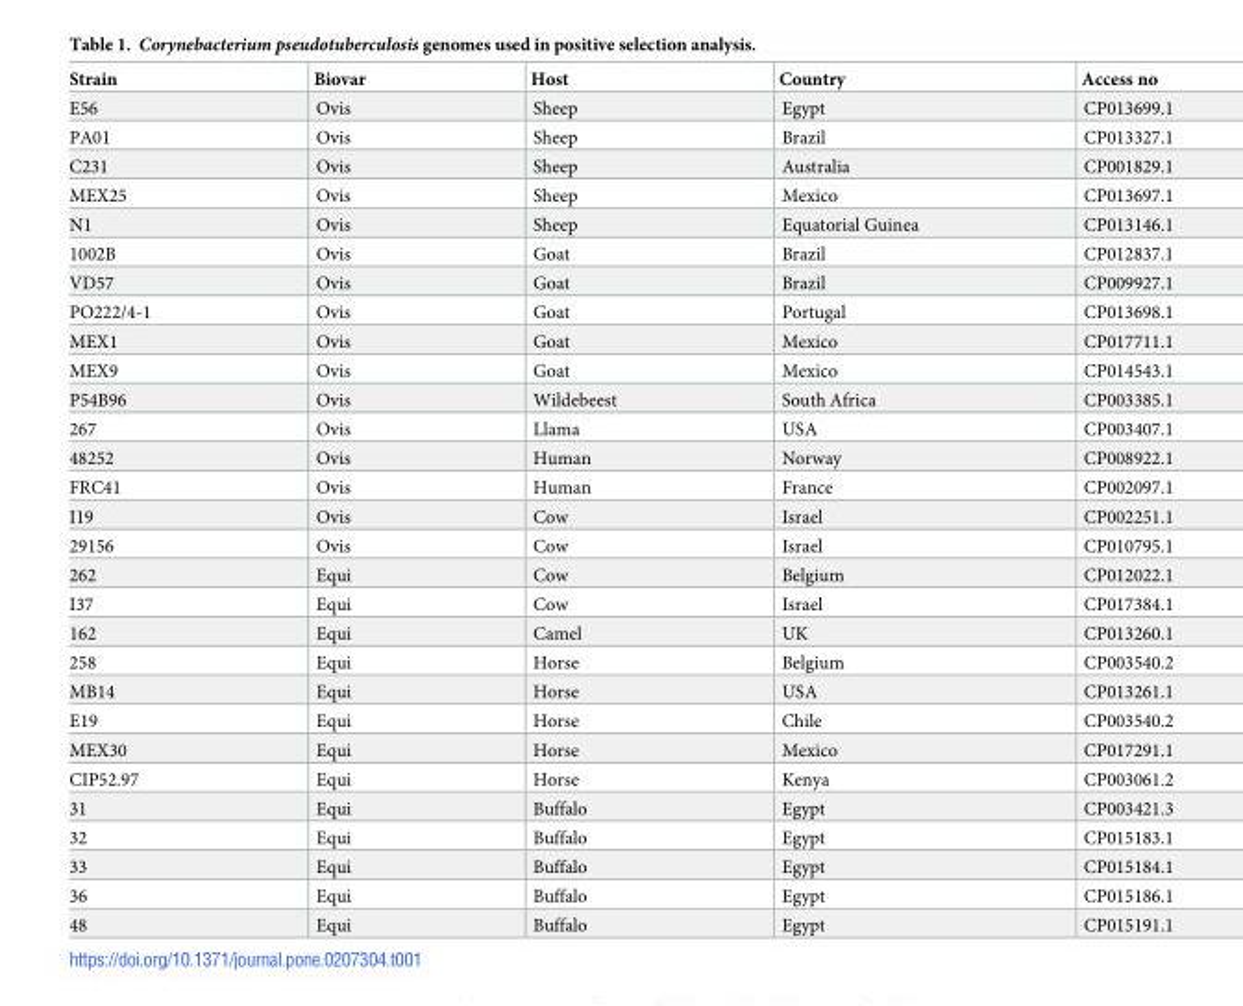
<table><thead><tr><td>Strain</td><td>Biovar</td><td>Host</td><td>Country</td><td>Access no</td></tr></thead><tbody><tr><td>E56</td><td>Ovis</td><td>Sheep</td><td>Egypt</td><td>CP013699.1</td></tr><tr><td>PA01</td><td>Ovis</td><td>Sheep</td><td>Brazil</td><td>CP013327.1</td></tr><tr><td>C231</td><td>Ovis</td><td>Sheep</td><td>Australia</td><td>CP001829.1</td></tr><tr><td>MEX25</td><td>Ovis</td><td>Sheep</td><td>Mexico</td><td>CP013697.1</td></tr><tr><td>N1</td><td>Ovis</td><td>Sheep</td><td>Equatorial Guinea</td><td>CP013146.1</td></tr><tr><td>1002B</td><td>Ovis</td><td>Goat</td><td>Brazil</td><td>CP012837.1</td></tr><tr><td>VD57</td><td>Ovis</td><td>Goat</td><td>Brazil</td><td>CP009927.1</td></tr><tr><td>PO222/4-1</td><td>Ovis</td><td>Goat</td><td>Portugal</td><td>CP013698.1</td></tr><tr><td>MEX1</td><td>Ovis</td><td>Goat</td><td>Mexico</td><td>CP017711.1</td></tr><tr><td>MEX9</td><td>Ovis</td><td>Goat</td><td>Mexico</td><td>CP014543.1</td></tr><tr><td>P54B96</td><td>Ovis</td><td>Wildebeest</td><td>South Africa</td><td>CP003385.1</td></tr><tr><td>267</td><td>Ovis</td><td>Llama</td><td>USA</td><td>CP003407.1</td></tr><tr><td>48252</td><td>Ovis</td><td>Human</td><td>Norway</td><td>CP008922.1</td></tr><tr><td>FRC41</td><td>Ovis</td><td>Human</td><td>France</td><td>CP002097.1</td></tr><tr><td>I19</td><td>Ovis</td><td>Cow</td><td>Israel</td><td>CP002251.1</td></tr><tr><td>29156</td><td>Ovis</td><td>Cow</td><td>Israel</td><td>CP010795.1</td></tr><tr><td>262</td><td>Equi</td><td>Cow</td><td>Belgium</td><td>CP012022.1</td></tr><tr><td>I37</td><td>Equi</td><td>Cow</td><td>Israel</td><td>CP017384.1</td></tr><tr><td>162</td><td>Equi</td><td>Camel</td><td>UK</td><td>CP013260.1</td></tr><tr><td>258</td><td>Equi</td><td>Horse</td><td>Belgium</td><td>CP003540.2</td></tr><tr><td>MB14</td><td>Equi</td><td>Horse</td><td>USA</td><td>CP013261.1</td></tr><tr><td>E19</td><td>Equi</td><td>Horse</td><td>Chile</td><td>CP003540.2</td></tr><tr><td>MEX30</td><td>Equi</td><td>Horse</td><td>Mexico</td><td>CP017291.1</td></tr><tr><td>CIP52.97</td><td>Equi</td><td>Horse</td><td>Kenya</td><td>CP003061.2</td></tr><tr><td>31</td><td>Equi</td><td>Buffalo</td><td>Egypt</td><td>CP003421.3</td></tr><tr><td>32</td><td>Equi</td><td>Buffalo</td><td>Egypt</td><td>CP015183.1</td></tr><tr><td>33</td><td>Equi</td><td>Buffalo</td><td>Egypt</td><td>CP015184.1</td></tr><tr><td>36</td><td>Equi</td><td>Buffalo</td><td>Egypt</td><td>CP015186.1</td></tr><tr><td>48</td><td>Equi</td><td>Buffalo</td><td>Egypt</td><td>CP015191.1</td></tr></tbody></table>